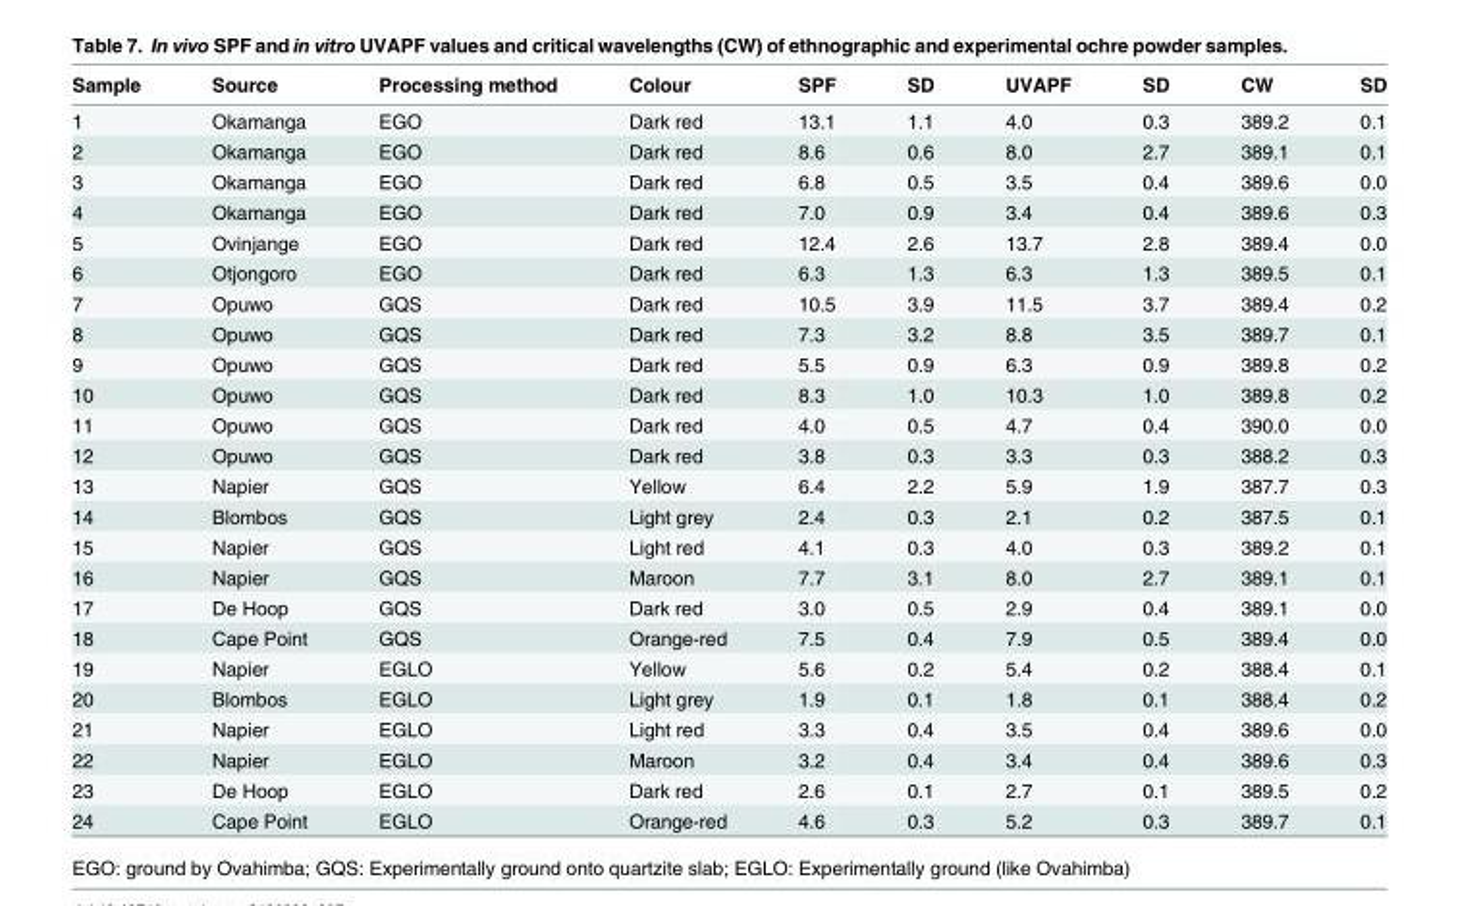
<table><thead><tr><td>Sample</td><td>Source</td><td>Processing method</td><td>Colour</td><td>SPF</td><td>SD</td><td>UVAPF</td><td>SD</td><td>CW</td><td>SD</td></tr></thead><tbody><tr><td>1</td><td>Okamanga</td><td>EGO</td><td>Dark red</td><td>13.1</td><td>1.1</td><td>4.0</td><td>0.3</td><td>389.2</td><td>0.1</td></tr><tr><td>2</td><td>Okamanga</td><td>EGO</td><td>Dark red</td><td>8.6</td><td>0.6</td><td>8.0</td><td>2.7</td><td>389.1</td><td>0.1</td></tr><tr><td>3</td><td>Okamanga</td><td>EGO</td><td>Dark red</td><td>6.8</td><td>0.5</td><td>3.5</td><td>0.4</td><td>389.6</td><td>0.0</td></tr><tr><td>4</td><td>Okamanga</td><td>EGO</td><td>Dark red</td><td>7.0</td><td>0.9</td><td>3.4</td><td>0.4</td><td>389.6</td><td>0.3</td></tr><tr><td>5</td><td>Ovinjange</td><td>EGO</td><td>Dark red</td><td>12.4</td><td>2.6</td><td>13.7</td><td>2.8</td><td>389.4</td><td>0.0</td></tr><tr><td>6</td><td>Otjongoro</td><td>EGO</td><td>Dark red</td><td>6.3</td><td>1.3</td><td>6.3</td><td>1.3</td><td>389.5</td><td>0.1</td></tr><tr><td>7</td><td>Opuwo</td><td>GQS</td><td>Dark red</td><td>10.5</td><td>3.9</td><td>11.5</td><td>3.7</td><td>389.4</td><td>0.2</td></tr><tr><td>8</td><td>Opuwo</td><td>GQS</td><td>Dark red</td><td>7.3</td><td>3.2</td><td>8.8</td><td>3.5</td><td>389.7</td><td>0.1</td></tr><tr><td>9</td><td>Opuwo</td><td>GQS</td><td>Dark red</td><td>5.5</td><td>0.9</td><td>6.3</td><td>0.9</td><td>389.8</td><td>0.2</td></tr><tr><td>10</td><td>Opuwo</td><td>GQS</td><td>Dark red</td><td>8.3</td><td>1.0</td><td>10.3</td><td>1.0</td><td>389.8</td><td>0.2</td></tr><tr><td>11</td><td>Opuwo</td><td>GQS</td><td>Dark red</td><td>4.0</td><td>0.5</td><td>4.7</td><td>0.4</td><td>390.0</td><td>0.0</td></tr><tr><td>12</td><td>Opuwo</td><td>GQS</td><td>Dark red</td><td>3.8</td><td>0.3</td><td>3.3</td><td>0.3</td><td>388.2</td><td>0.3</td></tr><tr><td>13</td><td>Napier</td><td>GQS</td><td>Yellow</td><td>6.4</td><td>2.2</td><td>5.9</td><td>1.9</td><td>387.7</td><td>0.3</td></tr><tr><td>14</td><td>Blombos</td><td>GQS</td><td>Light grey</td><td>2.4</td><td>0.3</td><td>2.1</td><td>0.2</td><td>387.5</td><td>0.1</td></tr><tr><td>15</td><td>Napier</td><td>GQS</td><td>Light red</td><td>4.1</td><td>0.3</td><td>4.0</td><td>0.3</td><td>389.2</td><td>0.1</td></tr><tr><td>16</td><td>Napier</td><td>GQS</td><td>Maroon</td><td>7.7</td><td>3.1</td><td>8.0</td><td>2.7</td><td>389.1</td><td>0.1</td></tr><tr><td>17</td><td>De Hoop</td><td>GQS</td><td>Dark red</td><td>3.0</td><td>0.5</td><td>2.9</td><td>0.4</td><td>389.1</td><td>0.0</td></tr><tr><td>18</td><td>Cape Point</td><td>GQS</td><td>Orange-red</td><td>7.5</td><td>0.4</td><td>7.9</td><td>0.5</td><td>389.4</td><td>0.0</td></tr><tr><td>19</td><td>Napier</td><td>EGLO</td><td>Yellow</td><td>5.6</td><td>0.2</td><td>5.4</td><td>0.2</td><td>388.4</td><td>0.1</td></tr><tr><td>20</td><td>Blombos</td><td>EGLO</td><td>Light grey</td><td>1.9</td><td>0.1</td><td>1.8</td><td>0.1</td><td>388.4</td><td>0.2</td></tr><tr><td>21</td><td>Napier</td><td>EGLO</td><td>Light red</td><td>3.3</td><td>0.4</td><td>3.5</td><td>0.4</td><td>389.6</td><td>0.0</td></tr><tr><td>22</td><td>Napier</td><td>EGLO</td><td>Maroon</td><td>3.2</td><td>0.4</td><td>3.4</td><td>0.4</td><td>389.6</td><td>0.3</td></tr><tr><td>23</td><td>De Hoop</td><td>EGLO</td><td>Dark red</td><td>2.6</td><td>0.1</td><td>2.7</td><td>0.1</td><td>389.5</td><td>0.2</td></tr><tr><td>24</td><td>Cape Point</td><td>EGLO</td><td>Orange-red</td><td>4.6</td><td>0.3</td><td>5.2</td><td>0.3</td><td>389.7</td><td>0.1</td></tr></tbody></table>